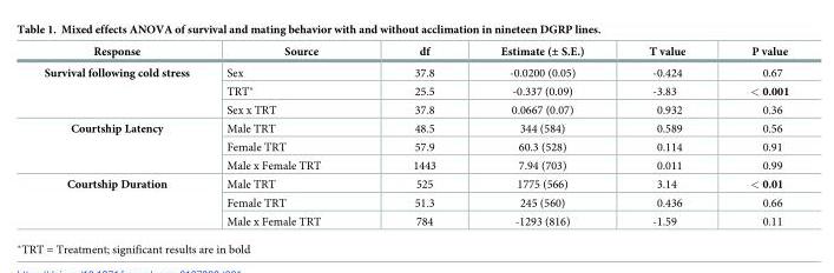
<table><thead><tr><td>Response</td><td>Source</td><td>df</td><td>Estimate (± S.E.)</td><td>T value</td><td>P value</td></tr></thead><tbody><tr><td rowspan="3">Survival following cold stress</td><td>Sex</td><td>37.8</td><td>-0.0200 (0.05)</td><td>-0.424</td><td>0.67</td></tr><tr><td>TRT*</td><td>25.5</td><td>-0.337 (0.09)</td><td>-3.83</td><td>&lt; 0.001</td></tr><tr><td>Sex x TRT</td><td>37.8</td><td>0.0667 (0.07)</td><td>0.932</td><td>0.36</td></tr><tr><td rowspan="3">Courtship Latency</td><td>Male TRT</td><td>48.5</td><td>344 (584)</td><td>0.589</td><td>0.56</td></tr><tr><td>Female TRT</td><td>57.9</td><td>60.3 (528)</td><td>0.114</td><td>0.91</td></tr><tr><td>Male x Female TRT</td><td>1443</td><td>7.94 (703)</td><td>0.011</td><td>0.99</td></tr><tr><td rowspan="3">Courtship Duration</td><td>Male TRT</td><td>525</td><td>1775 (566)</td><td>3.14</td><td>&lt; 0.01</td></tr><tr><td>Female TRT</td><td>51.3</td><td>245 (560)</td><td>0.436</td><td>0.66</td></tr><tr><td>Male x Female TRT</td><td>784</td><td>-1293 (816)</td><td>-1.59</td><td>0.11</td></tr></tbody></table>